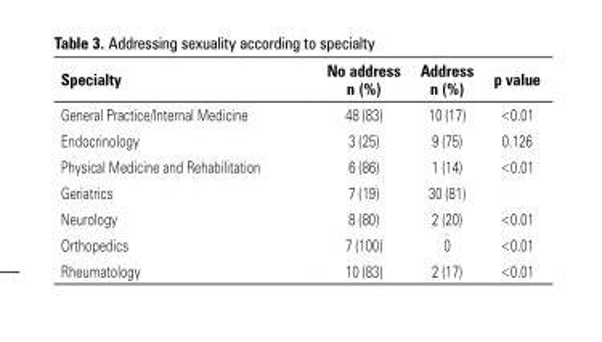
<table><thead><tr><td>Specialty</td><td>No address n (%)</td><td>Address n (%)</td><td>p value</td></tr></thead><tbody><tr><td>General Practice/Internal Medicine</td><td>48 (83)</td><td>10 (17)</td><td>&lt;0.01</td></tr><tr><td>Endocrinology</td><td>3 (25)</td><td>9 (75)</td><td>0.126</td></tr><tr><td>Physical Medicine and Rehabilitation</td><td>6 (86)</td><td>1 (14)</td><td>&lt;0.01</td></tr><tr><td>Geriatrics</td><td>7 (19)</td><td>30 (81)</td><td></td></tr><tr><td>Neurology</td><td>8 (80)</td><td>2 (20)</td><td>&lt;0.01</td></tr><tr><td>Orthopedics</td><td>7 (100)</td><td>0</td><td>&lt;0.01</td></tr><tr><td>Rheumatology</td><td>10 (83)</td><td>2 (17)</td><td>&lt;0.01</td></tr></tbody></table>